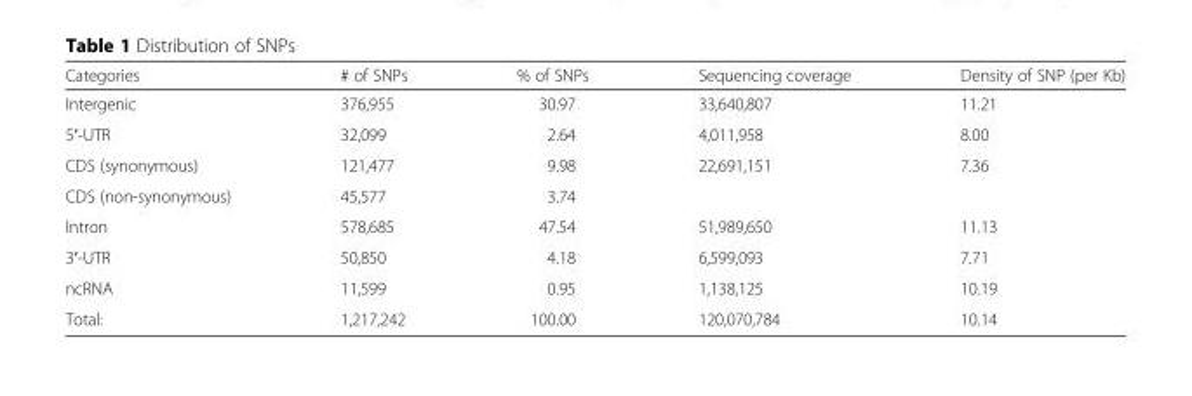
<table><thead><tr><td>Categories</td><td># of SNPs</td><td>% of SNPs</td><td>Sequencing coverage</td><td>Density of SNP (per Kb)</td></tr></thead><tbody><tr><td>Intergenic</td><td>376,955</td><td>30.97</td><td>33,640,807</td><td>11.21</td></tr><tr><td>5′-UTR</td><td>32,099</td><td>2.64</td><td>4,011,958</td><td>8.00</td></tr><tr><td>CDS (synonymous)</td><td>121,477</td><td>9.98</td><td rowspan="2">22,691,151</td><td rowspan="2">7.36</td></tr><tr><td>CDS (non-synonymous)</td><td>45,577</td><td>3.74</td></tr><tr><td>Intron</td><td>578,685</td><td>47.54</td><td>51,989,650</td><td>11.13</td></tr><tr><td>3′-UTR</td><td>50,850</td><td>4.18</td><td>6,599,093</td><td>7.71</td></tr><tr><td>ncRNA</td><td>11,599</td><td>0.95</td><td>1,138,125</td><td>10.19</td></tr><tr><td>Total:</td><td>1,217,242</td><td>100.00</td><td>120,070,784</td><td>10.14</td></tr></tbody></table>